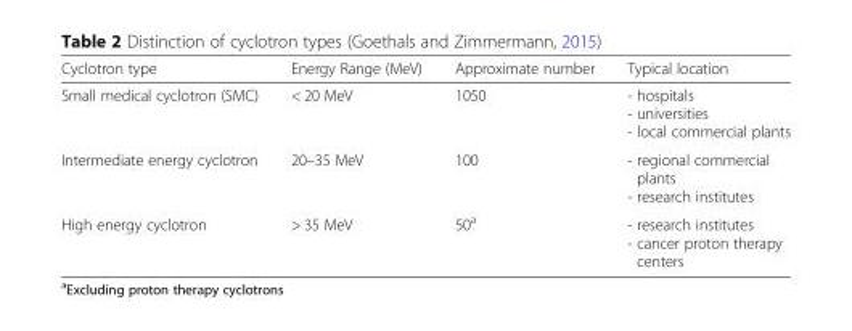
<table><thead><tr><td>Cyclotron type</td><td>Energy Range (MeV)</td><td>Approximate number</td><td>Typical location</td></tr></thead><tbody><tr><td>Small medical cyclotron (SMC)</td><td>&lt; 20 MeV</td><td>1050</td><td>- hospitals - universities - local commercial plants</td></tr><tr><td>Intermediate energy cyclotron</td><td>20–35 MeV</td><td>100</td><td>- regional commercial plants - research institutes</td></tr><tr><td>High energy cyclotron</td><td>&gt; 35 MeV</td><td>50<sup>a</sup></td><td>- research institutes - cancer proton therapy centers</td></tr></tbody></table>